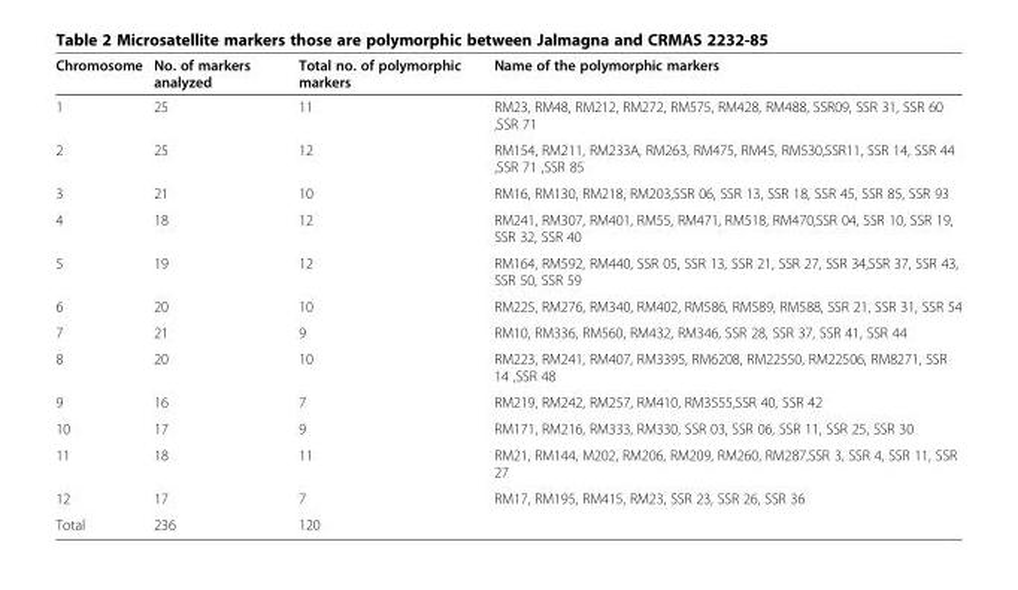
<table><thead><tr><td>Chromosome</td><td>No. of markers analyzed</td><td>Total no. of polymorphic markers</td><td>Name of the polymorphic markers</td></tr></thead><tbody><tr><td>1</td><td>25</td><td>11</td><td>RM23, RM48, RM212, RM272, RM575, RM428, RM488, SSR09, SSR 31, SSR 60 ,SSR 71</td></tr><tr><td>2</td><td>25</td><td>12</td><td>RM154, RM211, RM233A, RM263, RM475, RM45, RM530,SSR11, SSR 14, SSR 44 ,SSR 71 ,SSR 85</td></tr><tr><td>3</td><td>21</td><td>10</td><td>RM16, RM130, RM218, RM203,SSR 06, SSR 13, SSR 18, SSR 45, SSR 85, SSR 93</td></tr><tr><td>4</td><td>18</td><td>12</td><td>RM241, RM307, RM401, RM55, RM471, RM518, RM470,SSR 04, SSR 10, SSR 19, SSR 32, SSR 40</td></tr><tr><td>5</td><td>19</td><td>12</td><td>RM164, RM592, RM440, SSR 05, SSR 13, SSR 21, SSR 27, SSR 34,SSR 37, SSR 43, SSR 50, SSR 59</td></tr><tr><td>6</td><td>20</td><td>10</td><td>RM225, RM276, RM340, RM402, RM586, RM589, RM588, SSR 21, SSR 31, SSR 54</td></tr><tr><td>7</td><td>21</td><td>9</td><td>RM10, RM336, RM560, RM432, RM346, SSR 28, SSR 37, SSR 41, SSR 44</td></tr><tr><td>8</td><td>20</td><td>10</td><td>RM223, RM241, RM407, RM3395, RM6208, RM22550, RM22506, RM8271, SSR 14 ,SSR 48</td></tr><tr><td>9</td><td>16</td><td>7</td><td>RM219, RM242, RM257, RM410, RM3555,SSR 40, SSR 42</td></tr><tr><td>10</td><td>17</td><td>9</td><td>RM171, RM216, RM333, RM330, SSR 03, SSR 06, SSR 11, SSR 25, SSR 30</td></tr><tr><td>11</td><td>18</td><td>11</td><td>RM21, RM144, M202, RM206, RM209, RM260, RM287,SSR 3, SSR 4, SSR 11, SSR 27</td></tr><tr><td>12</td><td>17</td><td>7</td><td>RM17, RM195, RM415, RM23, SSR 23, SSR 26, SSR 36</td></tr><tr><td>Total</td><td>236</td><td>120</td><td></td></tr></tbody></table>